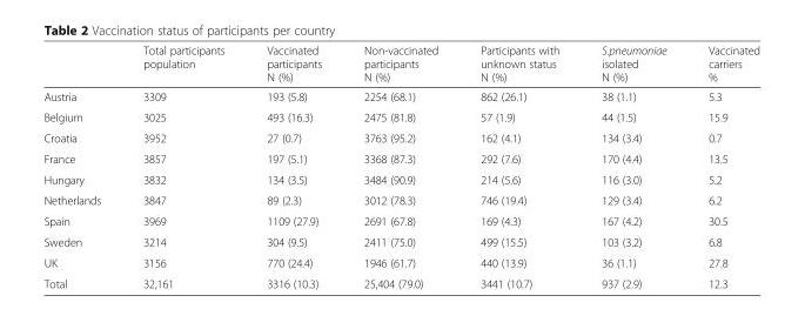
<table><thead><tr><td></td><td>Total participants population</td><td>Vaccinated participants N (%)</td><td>Non-vaccinated participants N (%)</td><td>Participants with unknown status N (%)</td><td>S.pneumoniae isolated N (%)</td><td>Vaccinated carriers %</td></tr></thead><tbody><tr><td>Austria</td><td>3309</td><td>193 (5.8)</td><td>2254 (68.1)</td><td>862 (26.1)</td><td>38 (1.1)</td><td>5.3</td></tr><tr><td>Belgium</td><td>3025</td><td>493 (16.3)</td><td>2475 (81.8)</td><td>57 (1.9)</td><td>44 (1.5)</td><td>15.9</td></tr><tr><td>Croatia</td><td>3952</td><td>27 (0.7)</td><td>3763 (95.2)</td><td>162 (4.1)</td><td>134 (3.4)</td><td>0.7</td></tr><tr><td>France</td><td>3857</td><td>197 (5.1)</td><td>3368 (87.3)</td><td>292 (7.6)</td><td>170 (4.4)</td><td>13.5</td></tr><tr><td>Hungary</td><td>3832</td><td>134 (3.5)</td><td>3484 (90.9)</td><td>214 (5.6)</td><td>116 (3.0)</td><td>5.2</td></tr><tr><td>Netherlands</td><td>3847</td><td>89 (2.3)</td><td>3012 (78.3)</td><td>746 (19.4)</td><td>129 (3.4)</td><td>6.2</td></tr><tr><td>Spain</td><td>3969</td><td>1109 (27.9)</td><td>2691 (67.8)</td><td>169 (4.3)</td><td>167 (4.2)</td><td>30.5</td></tr><tr><td>Sweden</td><td>3214</td><td>304 (9.5)</td><td>2411 (75.0)</td><td>499 (15.5)</td><td>103 (3.2)</td><td>6.8</td></tr><tr><td>UK</td><td>3156</td><td>770 (24.4)</td><td>1946 (61.7)</td><td>440 (13.9)</td><td>36 (1.1)</td><td>27.8</td></tr><tr><td>Total</td><td>32,161</td><td>3316 (10.3)</td><td>25,404 (79.0)</td><td>3441 (10.7)</td><td>937 (2.9)</td><td>12.3</td></tr></tbody></table>